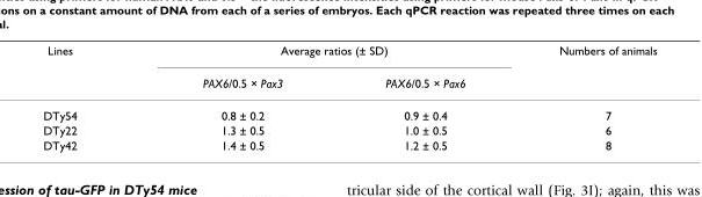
<table><thead><tr><td rowspan="2">Lines</td><td colspan="2">Average ratios (± SD)</td><td rowspan="2">Numbers of animals</td></tr><tr><td>PAX6/0.5 × Pax3</td><td>PAX6/0.5 × Pax6</td></tr></thead><tbody><tr><td>DTy54</td><td>0.8 ± 0.2</td><td>0.9 ± 0.4</td><td>7</td></tr><tr><td>DTy22</td><td>1.3 ± 0.5</td><td>1.0 ± 0.5</td><td>6</td></tr><tr><td>DTy42</td><td>1.4 ± 0.5</td><td>1.2 ± 0.5</td><td>8</td></tr></tbody></table>